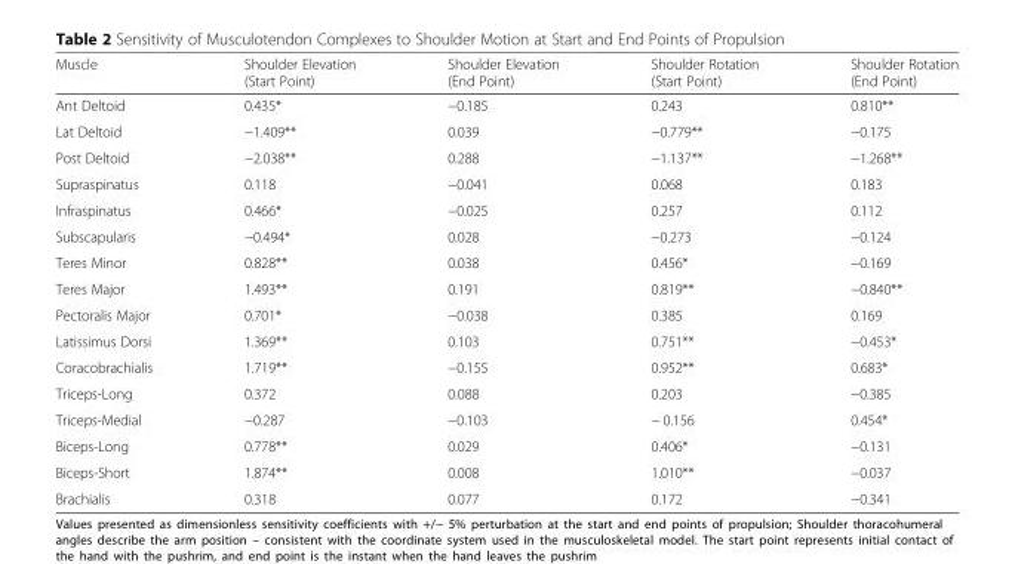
<table><thead><tr><td>Muscle</td><td>Shoulder Elevation (Start Point)</td><td>Shoulder Elevation (End Point)</td><td>Shoulder Rotation (Start Point)</td><td>Shoulder Rotation (End Point)</td></tr></thead><tbody><tr><td>Ant Deltoid</td><td>0.435*</td><td>−0.185</td><td>0.243</td><td>0.810**</td></tr><tr><td>Lat Deltoid</td><td>−1.409**</td><td>0.039</td><td>−0.779**</td><td>−0.175</td></tr><tr><td>Post Deltoid</td><td>−2.038**</td><td>0.288</td><td>−1.137**</td><td>−1.268**</td></tr><tr><td>Supraspinatus</td><td>0.118</td><td>−0.041</td><td>0.068</td><td>0.183</td></tr><tr><td>Infraspinatus</td><td>0.466*</td><td>−0.025</td><td>0.257</td><td>0.112</td></tr><tr><td>Subscapularis</td><td>−0.494*</td><td>0.028</td><td>−0.273</td><td>−0.124</td></tr><tr><td>Teres Minor</td><td>0.828**</td><td>0.038</td><td>0.456*</td><td>−0.169</td></tr><tr><td>Teres Major</td><td>1.493**</td><td>0.191</td><td>0.819**</td><td>−0.840**</td></tr><tr><td>Pectoralis Major</td><td>0.701*</td><td>−0.038</td><td>0.385</td><td>0.169</td></tr><tr><td>Latissimus Dorsi</td><td>1.369**</td><td>0.103</td><td>0.751**</td><td>−0.453*</td></tr><tr><td>Coracobrachialis</td><td>1.719**</td><td>−0.155</td><td>0.952**</td><td>0.683*</td></tr><tr><td>Triceps-Long</td><td>0.372</td><td>0.088</td><td>0.203</td><td>−0.385</td></tr><tr><td>Triceps-Medial</td><td>−0.287</td><td>−0.103</td><td>− 0.156</td><td>0.454*</td></tr><tr><td>Biceps-Long</td><td>0.778**</td><td>0.029</td><td>0.406*</td><td>−0.131</td></tr><tr><td>Biceps-Short</td><td>1.874**</td><td>0.008</td><td>1.010**</td><td>−0.037</td></tr><tr><td>Brachialis</td><td>0.318</td><td>0.077</td><td>0.172</td><td>−0.341</td></tr></tbody></table>